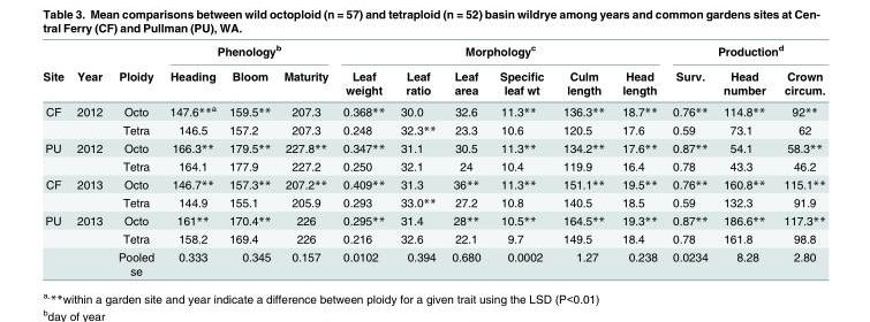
<table><thead><tr><td rowspan="2">Site</td><td rowspan="2">Year</td><td rowspan="2">Ploidy</td><td colspan="3">Phenology<sup>b</sup></td><td colspan="6">Morphology<sup>c</sup></td><td colspan="3">Production<sup>d</sup></td></tr><tr><td>Heading</td><td>Bloom</td><td>Maturity</td><td>Leaf weight</td><td>Leaf ratio</td><td>Leaf area</td><td>Specific leaf wt</td><td>Culm length</td><td>Head length</td><td>Surv.</td><td>Head number</td><td>Crown circum.</td></tr></thead><tbody><tr><td rowspan="2">CF</td><td>2012</td><td>Octo</td><td>147.6**<sup>a</sup></td><td>159.5**</td><td>207.3</td><td>0.368**</td><td>30.0</td><td>32.6</td><td>11.3**</td><td>136.3**</td><td>18.7**</td><td>0.76**</td><td>114.8**</td><td>92**</td></tr><tr><td></td><td>Tetra</td><td>146.5</td><td>157.2</td><td>207.3</td><td>0.248</td><td>32.3**</td><td>23.3</td><td>10.6</td><td>120.5</td><td>17.6</td><td>0.59</td><td>73.1</td><td>62</td></tr><tr><td rowspan="2">PU</td><td>2012</td><td>Octo</td><td>166.3**</td><td>179.5**</td><td>227.8**</td><td>0.347**</td><td>31.1</td><td>30.5</td><td>11.3**</td><td>134.2**</td><td>17.6**</td><td>0.87**</td><td>54.1</td><td>58.3**</td></tr><tr><td></td><td>Tetra</td><td>164.1</td><td>177.9</td><td>227.2</td><td>0.250</td><td>32.1</td><td>24</td><td>10.4</td><td>119.9</td><td>16.4</td><td>0.78</td><td>43.3</td><td>46.2</td></tr><tr><td rowspan="2">CF</td><td>2013</td><td>Octo</td><td>146.7**</td><td>157.3**</td><td>207.2**</td><td>0.409**</td><td>31.3</td><td>36**</td><td>11.3**</td><td>151.1**</td><td>19.5**</td><td>0.76**</td><td>160.8**</td><td>115.1**</td></tr><tr><td></td><td>Tetra</td><td>144.9</td><td>155.1</td><td>205.9</td><td>0.293</td><td>33.0**</td><td>27.2</td><td>10.8</td><td>140.5</td><td>18.5</td><td>0.59</td><td>132.3</td><td>91.9</td></tr><tr><td rowspan="3">PU</td><td>2013</td><td>Octo</td><td>161**</td><td>170.4**</td><td>226</td><td>0.295**</td><td>31.4</td><td>28**</td><td>10.5**</td><td>164.5**</td><td>19.3**</td><td>0.87**</td><td>186.6**</td><td>117.3**</td></tr><tr><td></td><td>Tetra</td><td>158.2</td><td>169.4</td><td>226</td><td>0.216</td><td>32.6</td><td>22.1</td><td>9.7</td><td>149.5</td><td>18.4</td><td>0.78</td><td>161.8</td><td>98.8</td></tr><tr><td></td><td>Pooled se</td><td>0.333</td><td>0.345</td><td>0.157</td><td>0.0102</td><td>0.394</td><td>0.680</td><td>0.0002</td><td>1.27</td><td>0.238</td><td>0.0234</td><td>8.28</td><td>2.80</td></tr></tbody></table>